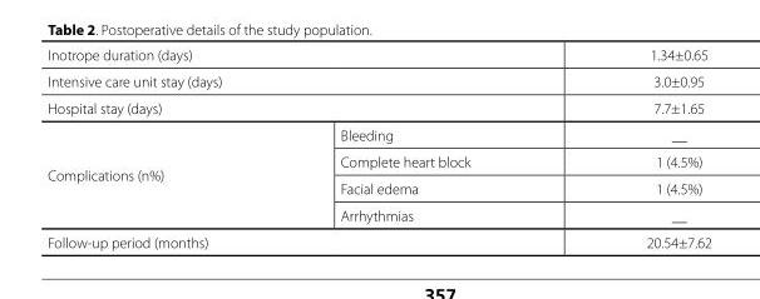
<table><tbody><tr><td colspan="2">Inotrope duration (days)</td><td>1.34±0.65</td></tr><tr><td colspan="2">Intensive care unit stay (days)</td><td>3.0±0.95</td></tr><tr><td colspan="2">Hospital stay (days)</td><td>7.7±1.65</td></tr><tr><td rowspan="4">Complications (n%)</td><td>Bleeding</td><td>__</td></tr><tr><td>Complete heart block</td><td>1 (4.5%)</td></tr><tr><td>Facial edema</td><td>1 (4.5%)</td></tr><tr><td>Arrhythmias</td><td>__</td></tr><tr><td colspan="2">Follow-up period (months)</td><td>20.54±7.62</td></tr></tbody></table>